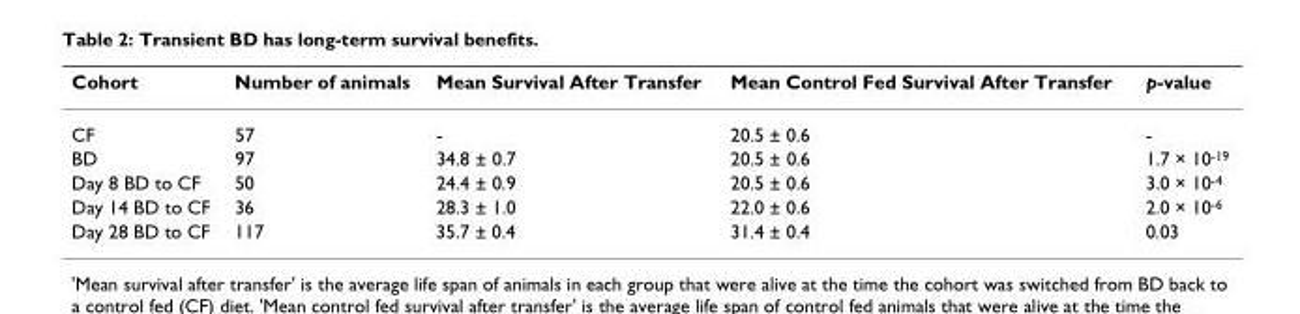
<table><thead><tr><td>Cohort</td><td>Number of animals</td><td>Mean Survival After Transfer</td><td>Mean Control Fed Survival After Transfer</td><td>p-value</td></tr></thead><tbody><tr><td>CF</td><td>57</td><td>-</td><td>20.5 ± 0.6</td><td>-</td></tr><tr><td>BD</td><td>97</td><td>34.8 ± 0.7</td><td>20.5 ± 0.6</td><td>1.7 × 10<sup>-19</sup></td></tr><tr><td>Day 8 BD to CF</td><td>50</td><td>24.4 ± 0.9</td><td>20.5 ± 0.6</td><td>3.0 × 10<sup>-4</sup></td></tr><tr><td>Day 14 BD to CF</td><td>36</td><td>28.3 ± 1.0</td><td>22.0 ± 0.6</td><td>2.0 × 10<sup>-6</sup></td></tr><tr><td>Day 28 BD to CF</td><td>117</td><td>35.7 ± 0.4</td><td>31.4 ± 0.4</td><td>0.03</td></tr></tbody></table>